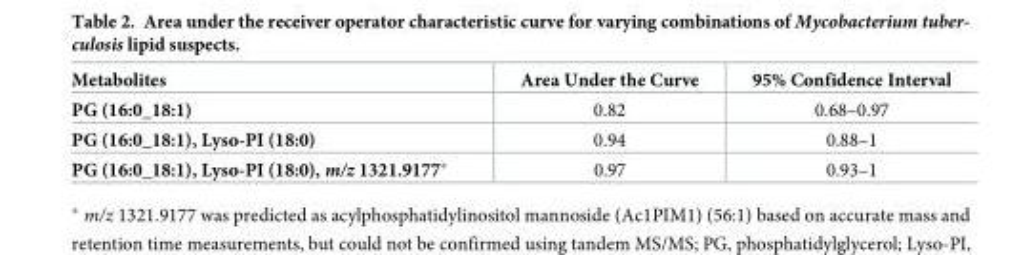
<table><thead><tr><td>Metabolites</td><td>Area Under the Curve</td><td>95% Confidence Interval</td></tr></thead><tbody><tr><td>PG (16:0_18:1)</td><td>0.82</td><td>0.68–0.97</td></tr><tr><td>PG (16:0_18:1), Lyso-PI (18:0)</td><td>0.94</td><td>0.88–1</td></tr><tr><td>PG (16:0_18:1), Lyso-PI (18:0), m/z 1321.9177*</td><td>0.97</td><td>0.93–1</td></tr></tbody></table>